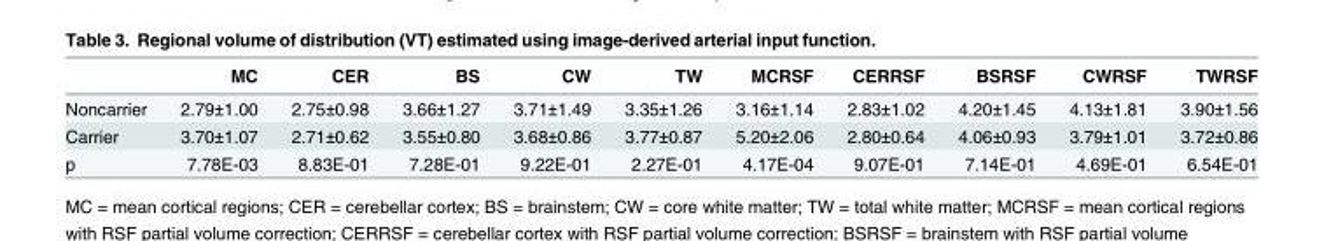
<table><thead><tr><td></td><td>MC</td><td>CER</td><td>BS</td><td>CW</td><td>TW</td><td>MCRSF</td><td>CERRSF</td><td>BSRSF</td><td>CWRSF</td><td>TWRSF</td></tr></thead><tbody><tr><td>Noncarrier</td><td>2.79±1.00</td><td>2.75±0.98</td><td>3.66±1.27</td><td>3.71±1.49</td><td>3.35±1.26</td><td>3.16±1.14</td><td>2.83±1.02</td><td>4.20±1.45</td><td>4.13±1.81</td><td>3.90±1.56</td></tr><tr><td>Carrier</td><td>3.70±1.07</td><td>2.71±0.62</td><td>3.55±0.80</td><td>3.68±0.86</td><td>3.77±0.87</td><td>5.20±2.06</td><td>2.80±0.64</td><td>4.06±0.93</td><td>3.79±1.01</td><td>3.72±0.86</td></tr><tr><td>p</td><td>7.78E-03</td><td>8.83E-01</td><td>7.28E-01</td><td>9.22E-01</td><td>2.27E-01</td><td>4.17E-04</td><td>9.07E-01</td><td>7.14E-01</td><td>4.69E-01</td><td>6.54E-01</td></tr></tbody></table>